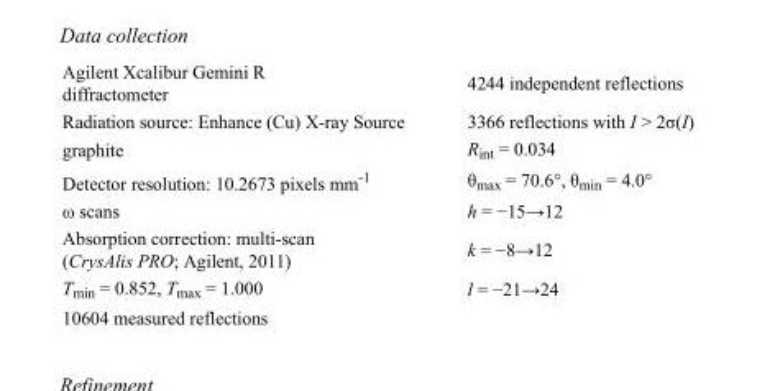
<table><tbody><tr><td>Agilent Xcalibur Gemini R diffractometer</td><td>4244 independent reflections</td></tr><tr><td>Radiation source: Enhance (Cu) X-ray Source</td><td>3366 reflections with I &gt; 2σ(I)</td></tr><tr><td>graphite</td><td>R<sub>int</sub> = 0.034</td></tr><tr><td>Detector resolution: 10.2673 pixels mm<sup>-1</sup></td><td>θ<sub>max</sub> = 70.6°, θ<sub>min</sub> = 4.0°</td></tr><tr><td>ω scans</td><td>h = −15→12</td></tr><tr><td>Absorption correction: multi-scan (CrysAlis PRO; Agilent, 2011)</td><td>k = −8→12</td></tr><tr><td>T<sub>min</sub> = 0.852, T<sub>max</sub> = 1.000</td><td>l = −21→24</td></tr><tr><td>10604 measured reflections</td><td></td></tr></tbody></table>